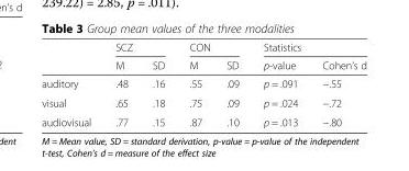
<table><thead><tr><td rowspan="2"></td><td colspan="2">SCZ</td><td colspan="2">CON</td><td colspan="2">Statistics</td></tr><tr><td>M</td><td>SD</td><td>M</td><td>SD</td><td>p-value</td><td>Cohen’s d</td></tr></thead><tbody><tr><td>auditory</td><td>.48</td><td>.16</td><td>.55</td><td>.09</td><td>p = .091</td><td>−.55</td></tr><tr><td>visual</td><td>.65</td><td>.18</td><td>.75</td><td>.09</td><td>p = .024</td><td>−.72</td></tr><tr><td>audiovisual</td><td>.77</td><td>.15</td><td>.87</td><td>.10</td><td>p = .013</td><td>−.80</td></tr></tbody></table>